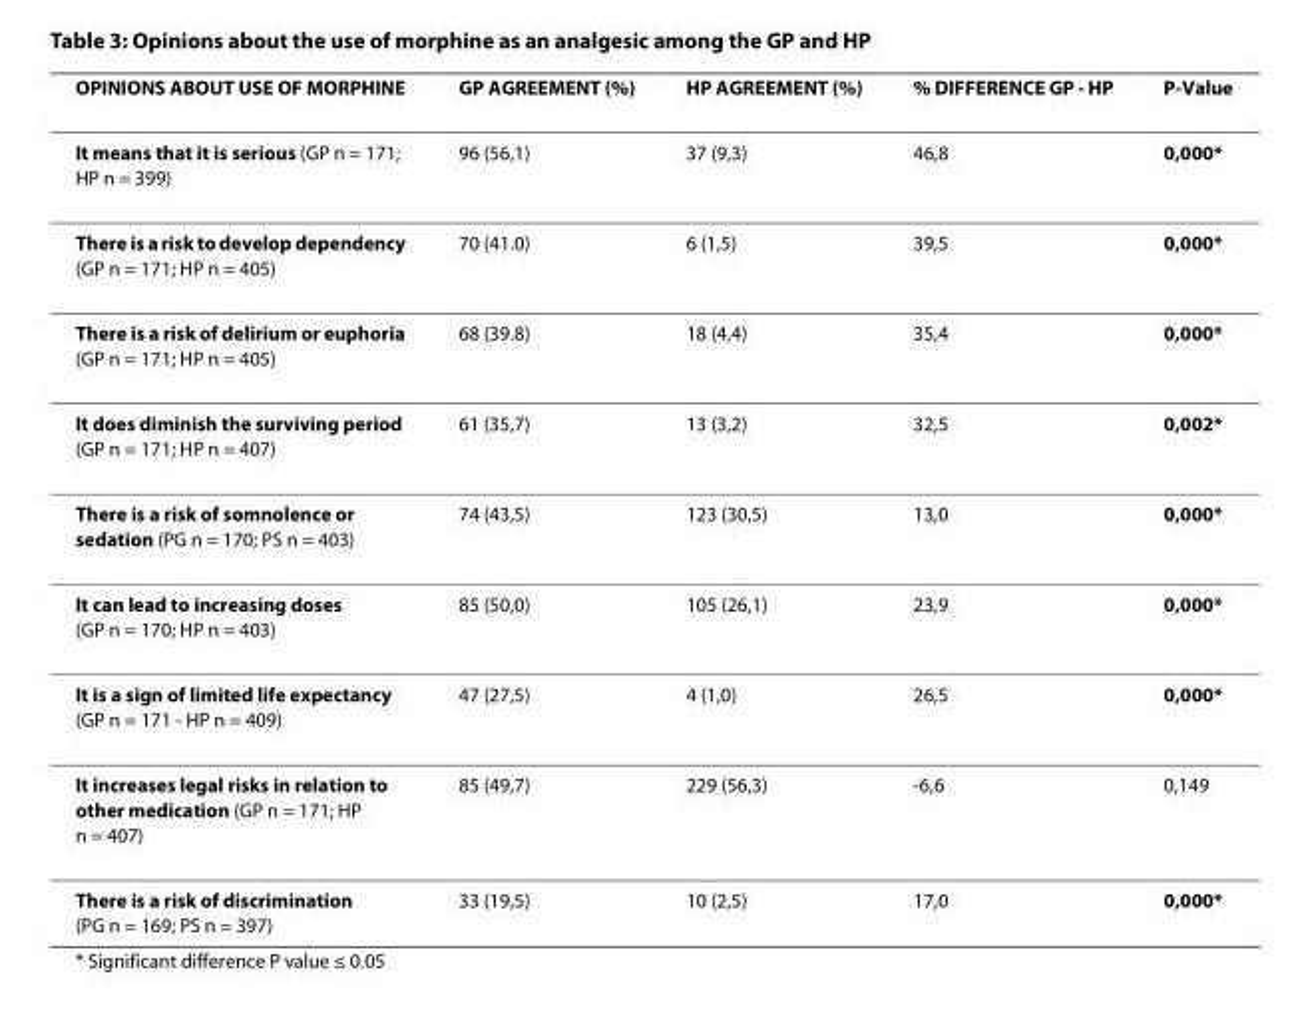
<table><thead><tr><td>OPINIONS ABOUT USE OF MORPHINE</td><td>GP AGREEMENT (%)</td><td>HP AGREEMENT (%)</td><td>% DIFFERENCE GP - HP</td><td>P-Value</td></tr></thead><tbody><tr><td>It means that it is serious (GP n = 171; HP n = 399)</td><td>96 (56,1)</td><td>37 (9,3)</td><td>46,8</td><td>0,000*</td></tr><tr><td>There is a risk to develop dependency (GP n = 171; HP n = 405)</td><td>70 (41.0)</td><td>6 (1,5)</td><td>39,5</td><td>0,000*</td></tr><tr><td>There is a risk of delirium or euphoria (GP n = 171; HP n = 405)</td><td>68 (39.8)</td><td>18 (4,4)</td><td>35,4</td><td>0,000*</td></tr><tr><td>It does diminish the surviving period (GP n = 171; HP n = 407)</td><td>61 (35,7)</td><td>13 (3,2)</td><td>32,5</td><td>0,002*</td></tr><tr><td>There is a risk of somnolence or sedation (PG n = 170; PS n = 403)</td><td>74 (43,5)</td><td>123 (30,5)</td><td>13,0</td><td>0,000*</td></tr><tr><td>It can lead to increasing doses (GP n = 170; HP n = 403)</td><td>85 (50,0)</td><td>105 (26,1)</td><td>23,9</td><td>0,000*</td></tr><tr><td>It is a sign of limited life expectancy (GP n = 171 - HP n = 409)</td><td>47 (27,5)</td><td>4 (1,0)</td><td>26,5</td><td>0,000*</td></tr><tr><td>It increases legal risks in relation to other medication (GP n = 171; HP n = 407)</td><td>85 (49,7)</td><td>229 (56,3)</td><td>-6,6</td><td>0,149</td></tr><tr><td>There is a risk of discrimination (PG n = 169; PS n = 397)</td><td>33 (19,5)</td><td>10 (2,5)</td><td>17,0</td><td>0,000*</td></tr></tbody></table>